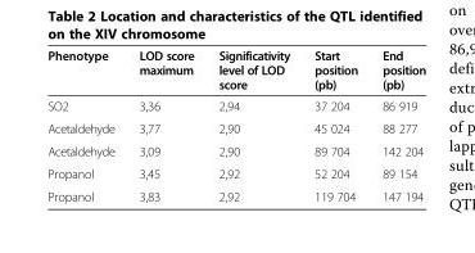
<table><thead><tr><td>Phenotype</td><td>LOD score maximum</td><td>Significativity level of LOD score</td><td>Start position (pb)</td><td>End position (pb)</td></tr></thead><tbody><tr><td>SO2</td><td>3,36</td><td>2,94</td><td>37 204</td><td>86 919</td></tr><tr><td>Acetaldehyde</td><td>3,77</td><td>2,90</td><td>45 024</td><td>88 277</td></tr><tr><td>Acetaldehyde</td><td>3,09</td><td>2,90</td><td>89 704</td><td>142 204</td></tr><tr><td>Propanol</td><td>3,45</td><td>2,92</td><td>52 204</td><td>89 154</td></tr><tr><td>Propanol</td><td>3,83</td><td>2,92</td><td>119 704</td><td>147 194</td></tr></tbody></table>